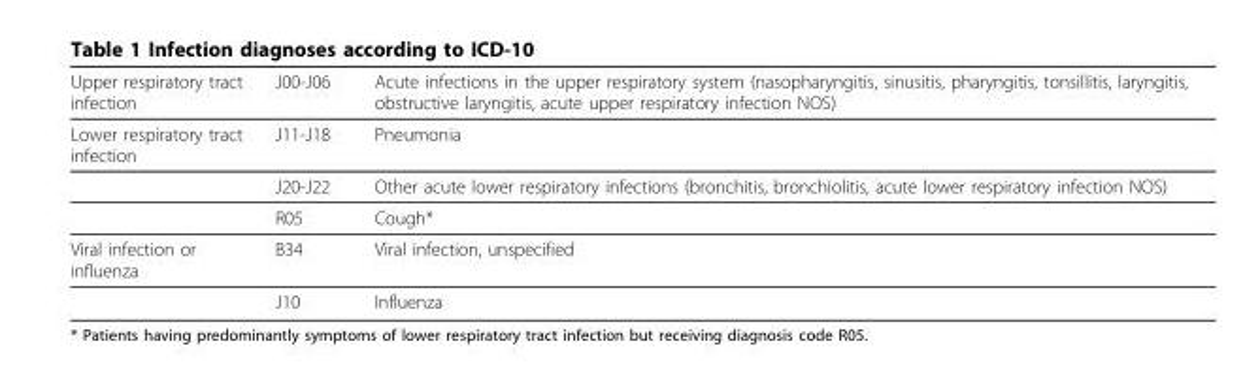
<table><thead><tr><td>Upper respiratory tract infection</td><td>J00-J06</td><td>Acute infections in the upper respiratory system (nasopharyngitis, sinusitis, pharyngitis, tonsillitis, laryngitis, obstructive laryngitis, acute upper respiratory infection NOS)</td></tr></thead><tbody><tr><td rowspan="3">Lower respiratory tract infection</td><td>J11-J18</td><td>Pneumonia</td></tr><tr><td>J20-J22</td><td>Other acute lower respiratory infections (bronchitis, bronchiolitis, acute lower respiratory infection NOS)</td></tr><tr><td>R05</td><td>Cough*</td></tr><tr><td rowspan="2">Viral infection or influenza</td><td>B34</td><td>Viral infection, unspecified</td></tr><tr><td>J10</td><td>Influenza</td></tr></tbody></table>